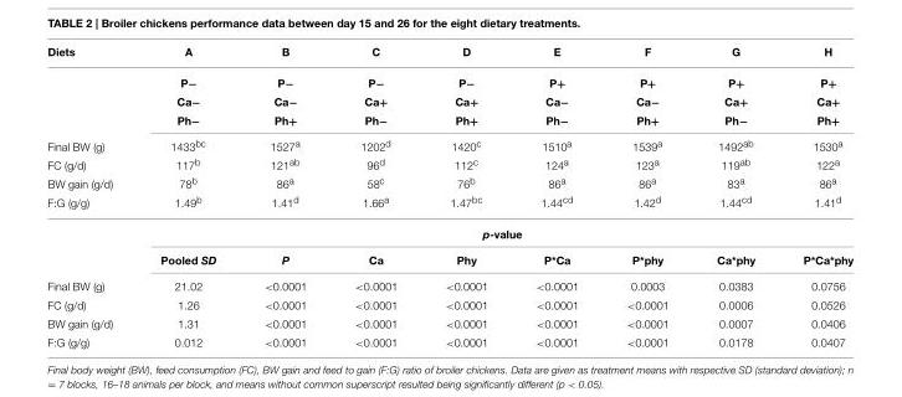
<table><thead><tr><td>Diets</td><td>A</td><td>B</td><td>C</td><td>D</td><td>E</td><td>F</td><td>G</td><td>H</td></tr></thead><tbody><tr><td></td><td>P−</td><td>P−</td><td>P−</td><td>P−</td><td>P+</td><td>P+</td><td>P+</td><td>P+</td></tr><tr><td></td><td>Ca−</td><td>Ca−</td><td>Ca+</td><td>Ca+</td><td>Ca−</td><td>Ca−</td><td>Ca+</td><td>Ca+</td></tr><tr><td></td><td>Ph−</td><td>Ph+</td><td>Ph−</td><td>Ph+</td><td>Ph−</td><td>Ph+</td><td>Ph−</td><td>Ph+</td></tr><tr><td>Final BW (g)</td><td>1433<sup>bc</sup></td><td>1527<sup>a</sup></td><td>1202<sup>d</sup></td><td>1420<sup>c</sup></td><td>1510<sup>a</sup></td><td>1539<sup>a</sup></td><td>1492<sup>ab</sup></td><td>1530<sup>a</sup></td></tr><tr><td>FC (g/d)</td><td>117<sup>b</sup></td><td>121<sup>ab</sup></td><td>96<sup>d</sup></td><td>112<sup>c</sup></td><td>124<sup>a</sup></td><td>123<sup>a</sup></td><td>119<sup>ab</sup></td><td>122<sup>a</sup></td></tr><tr><td>BW gain (g/d)</td><td>78<sup>b</sup></td><td>86<sup>a</sup></td><td>58<sup>c</sup></td><td>76<sup>b</sup></td><td>86<sup>a</sup></td><td>86<sup>a</sup></td><td>83<sup>a</sup></td><td>86<sup>a</sup></td></tr><tr><td rowspan="3">F:G (g/g)</td><td>1.49<sup>b</sup></td><td>1.41<sup>d</sup></td><td>1.66<sup>a</sup></td><td>1.47<sup>bc</sup></td><td>1.44<sup>cd</sup></td><td>1.42<sup>d</sup></td><td>1.44<sup>cd</sup></td><td>1.41<sup>d</sup></td></tr><tr><td colspan="8">p-value</td></tr><tr><td>Pooled SD</td><td>P</td><td>Ca</td><td>Phy</td><td>P*Ca</td><td>P*phy</td><td>Ca*phy</td><td>P*Ca*phy</td></tr><tr><td>Final BW (g)</td><td>21.02</td><td>&lt;0.0001</td><td>&lt;0.0001</td><td>&lt;0.0001</td><td>&lt;0.0001</td><td>0.0003</td><td>0.0383</td><td>0.0756</td></tr><tr><td>FC (g/d)</td><td>1.26</td><td>&lt;0.0001</td><td>&lt;0.0001</td><td>&lt;0.0001</td><td>&lt;0.0001</td><td>&lt;0.0001</td><td>0.0006</td><td>0.0526</td></tr><tr><td>BW gain (g/d)</td><td>1.31</td><td>&lt;0.0001</td><td>&lt;0.0001</td><td>&lt;0.0001</td><td>&lt;0.0001</td><td>&lt;0.0001</td><td>0.0007</td><td>0.0406</td></tr><tr><td>F:G (g/g)</td><td>0.012</td><td>&lt;0.0001</td><td>&lt;0.0001</td><td>&lt;0.0001</td><td>&lt;0.0001</td><td>&lt;0.0001</td><td>0.0178</td><td>0.0407</td></tr></tbody></table>